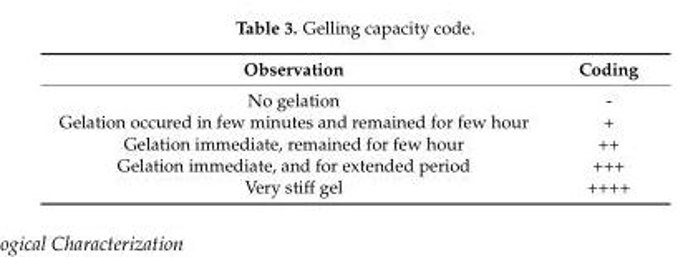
<table><thead><tr><td>Observation</td><td>Coding</td></tr></thead><tbody><tr><td>No gelation</td><td>-</td></tr><tr><td>Gelation occured in few minutes and remained for few hour</td><td>+</td></tr><tr><td>Gelation immediate, remained for few hour</td><td>++</td></tr><tr><td>Gelation immediate, and for extended period</td><td>+++</td></tr><tr><td>Very stiff gel</td><td>++++</td></tr></tbody></table>